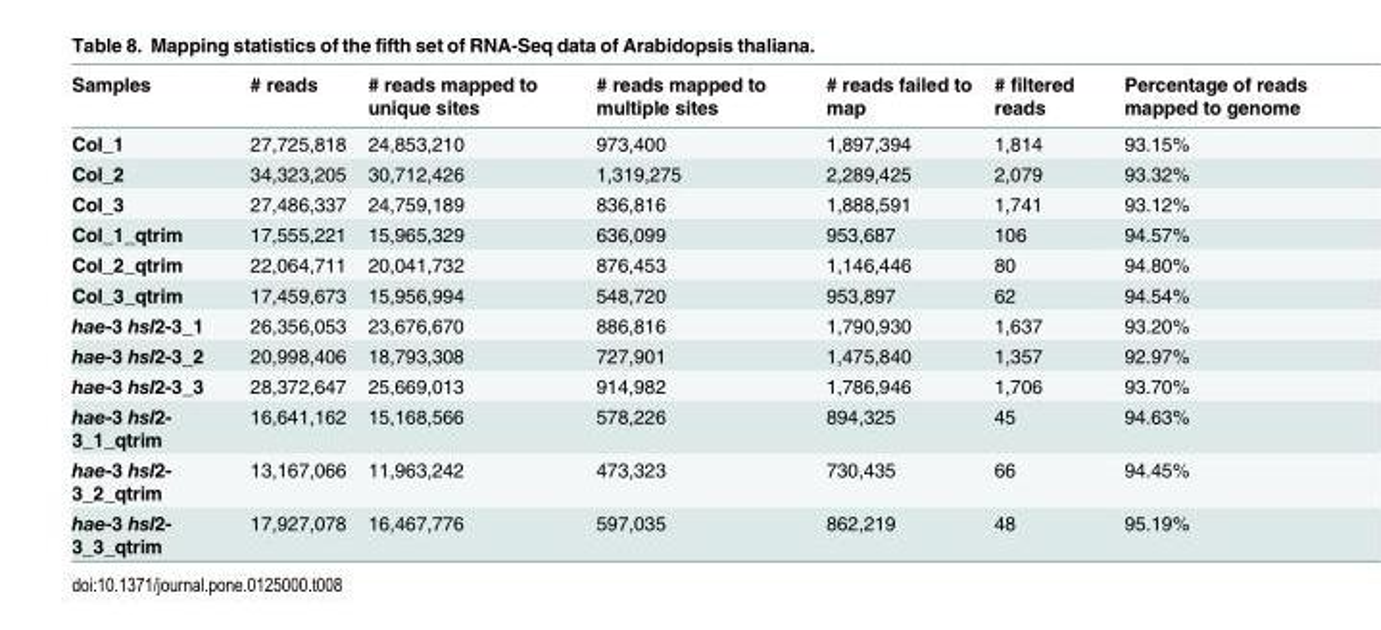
<table><thead><tr><td>Samples</td><td># reads</td><td># reads mapped to unique sites</td><td># reads mapped to multiple sites</td><td># reads failed to map</td><td># filtered reads</td><td>Percentage of reads mapped to genome</td></tr></thead><tbody><tr><td>Col_1</td><td>27,725,818</td><td>24,853,210</td><td>973,400</td><td>1,897,394</td><td>1,814</td><td>93.15%</td></tr><tr><td>Col_2</td><td>34,323,205</td><td>30,712,426</td><td>1,319,275</td><td>2,289,425</td><td>2,079</td><td>93.32%</td></tr><tr><td>Col_3</td><td>27,486,337</td><td>24,759,189</td><td>836,816</td><td>1,888,591</td><td>1,741</td><td>93.12%</td></tr><tr><td>Col_1_qtrim</td><td>17,555,221</td><td>15,965,329</td><td>636,099</td><td>953,687</td><td>106</td><td>94.57%</td></tr><tr><td>Col_2_qtrim</td><td>22,064,711</td><td>20,041,732</td><td>876,453</td><td>1,146,446</td><td>80</td><td>94.80%</td></tr><tr><td>Col_3_qtrim</td><td>17,459,673</td><td>15,956,994</td><td>548,720</td><td>953,897</td><td>62</td><td>94.54%</td></tr><tr><td>hae-3 hsl2-3_1</td><td>26,356,053</td><td>23,676,670</td><td>886,816</td><td>1,790,930</td><td>1,637</td><td>93.20%</td></tr><tr><td>hae-3 hsl2-3_2</td><td>20,998,406</td><td>18,793,308</td><td>727,901</td><td>1,475,840</td><td>1,357</td><td>92.97%</td></tr><tr><td>hae-3 hsl2-3_3</td><td>28,372,647</td><td>25,669,013</td><td>914,982</td><td>1,786,946</td><td>1,706</td><td>93.70%</td></tr><tr><td>hae-3 hsl2- 3_1_qtrim</td><td>16,641,162</td><td>15,168,566</td><td>578,226</td><td>894,325</td><td>45</td><td>94.63%</td></tr><tr><td>hae-3 hsl2- 3_2_qtrim</td><td>13,167,066</td><td>11,963,242</td><td>473,323</td><td>730,435</td><td>66</td><td>94.45%</td></tr><tr><td>hae-3 hsl2- 3_3_qtrim</td><td>17,927,078</td><td>16,467,776</td><td>597,035</td><td>862,219</td><td>48</td><td>95.19%</td></tr></tbody></table>